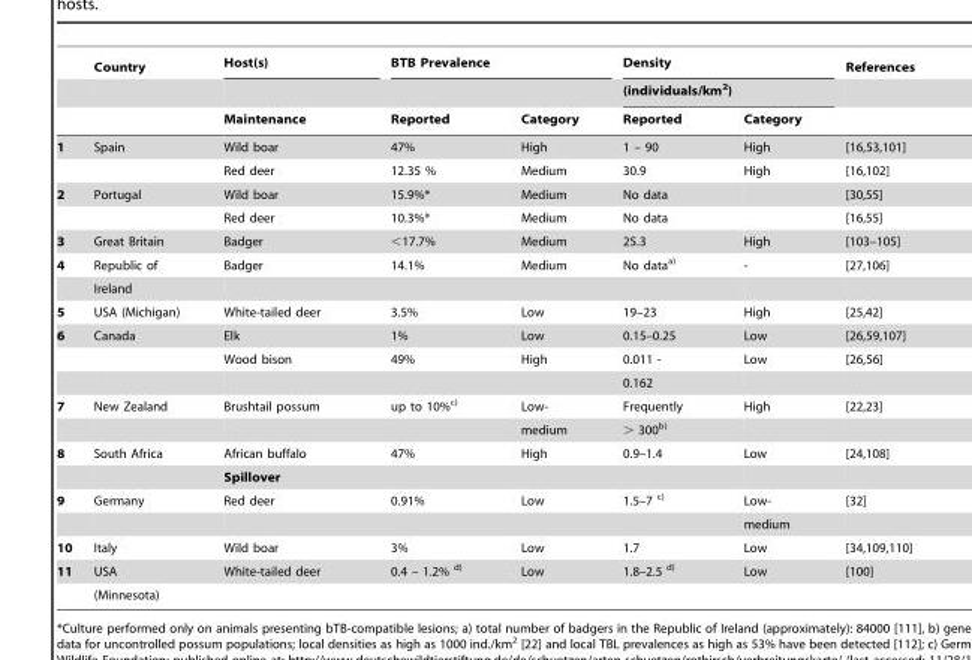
<table><thead><tr><td rowspan="3"></td><td rowspan="3">Country</td><td rowspan="3">Host(s) Maintenance</td><td colspan="2">BTB Prevalence</td><td rowspan="2" colspan="2">Density (individuals/km<sup>2</sup>)</td><td rowspan="3">References</td></tr><tr><td rowspan="2">Reported</td><td rowspan="2">Category</td></tr><tr><td>Reported</td><td>Category</td></tr></thead><tbody><tr><td rowspan="2">1</td><td>Spain</td><td>Wild boar</td><td>47%</td><td>High</td><td>1 – 90</td><td>High</td><td>[16,53,101]</td></tr><tr><td></td><td>Red deer</td><td>12.35 %</td><td>Medium</td><td>30.9</td><td>High</td><td>[16,102]</td></tr><tr><td rowspan="2">2</td><td>Portugal</td><td>Wild boar</td><td>15.9%*</td><td>Medium</td><td>No data</td><td></td><td>[30,55]</td></tr><tr><td></td><td>Red deer</td><td>10.3%*</td><td>Medium</td><td>No data</td><td></td><td>[16,55]</td></tr><tr><td>3</td><td>Great Britain</td><td>Badger</td><td>&lt;17.7%</td><td>Medium</td><td>25.3</td><td>High</td><td>[103–105]</td></tr><tr><td rowspan="2">4</td><td>Republic of</td><td>Badger</td><td>14.1%</td><td>Medium</td><td>No data<sup>a)</sup></td><td>-</td><td>[27,106]</td></tr><tr><td>Ireland</td><td></td><td></td><td></td><td></td><td></td><td></td></tr><tr><td>5</td><td>USA (Michigan)</td><td>White-tailed deer</td><td>3.5%</td><td>Low</td><td>19–23</td><td>High</td><td>[25,42]</td></tr><tr><td rowspan="3">6</td><td>Canada</td><td>Elk</td><td>1%</td><td>Low</td><td>0.15–0.25</td><td>Low</td><td>[26,59,107]</td></tr><tr><td></td><td>Wood bison</td><td>49%</td><td>High</td><td>0.011 -</td><td>Low</td><td>[26,56]</td></tr><tr><td></td><td></td><td></td><td></td><td>0.162</td><td></td><td></td></tr><tr><td rowspan="2">7</td><td>New Zealand</td><td>Brushtail possum</td><td>up to 10%<sup>c)</sup></td><td>Low-</td><td>Frequently</td><td>High</td><td>[22,23]</td></tr><tr><td></td><td></td><td></td><td>medium</td><td>&gt; 300<sup>b)</sup></td><td></td><td></td></tr><tr><td rowspan="2">8</td><td>South Africa</td><td>African buffalo</td><td>47%</td><td>High</td><td>0.9–1.4</td><td>Low</td><td>[24,108]</td></tr><tr><td></td><td>Spillover</td><td></td><td></td><td></td><td></td><td></td></tr><tr><td rowspan="2">9</td><td>Germany</td><td>Red deer</td><td>0.91%</td><td>Low</td><td>1.5–7 <sup>c)</sup></td><td>Low-</td><td>[32]</td></tr><tr><td></td><td></td><td></td><td></td><td></td><td>medium</td><td></td></tr><tr><td>10</td><td>Italy</td><td>Wild boar</td><td>3%</td><td>Low</td><td>1.7</td><td>Low</td><td>[34,109,110]</td></tr><tr><td rowspan="2">11</td><td>USA</td><td>White-tailed deer</td><td>0.4 – 1.2% <sup>d)</sup></td><td>Low</td><td>1.8–2.5 <sup>d)</sup></td><td>Low</td><td>[100]</td></tr><tr><td>(Minnesota)</td><td></td><td></td><td></td><td></td><td></td><td></td></tr></tbody></table>